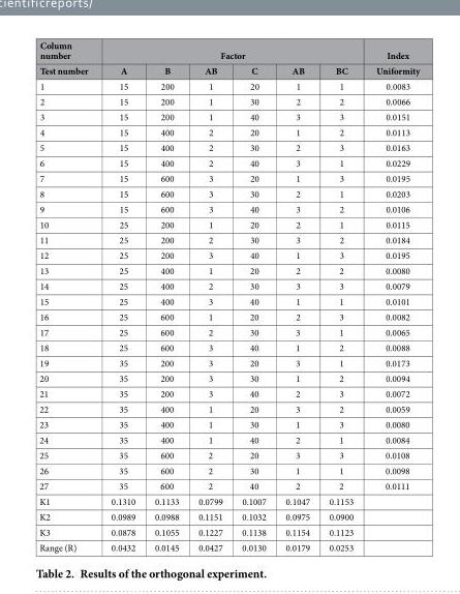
<table><thead><tr><td rowspan="2">Column number Test number</td><td colspan="6">Factor</td><td rowspan="2">Index Uniformity</td></tr><tr><td>A</td><td>B</td><td>AB</td><td>C</td><td>AB</td><td>BC</td></tr></thead><tbody><tr><td>1</td><td>15</td><td>200</td><td>1</td><td>20</td><td>1</td><td>1</td><td>0.0083</td></tr><tr><td>2</td><td>15</td><td>200</td><td>1</td><td>30</td><td>2</td><td>2</td><td>0.0066</td></tr><tr><td>3</td><td>15</td><td>200</td><td>1</td><td>40</td><td>3</td><td>3</td><td>0.0151</td></tr><tr><td>4</td><td>15</td><td>400</td><td>2</td><td>20</td><td>1</td><td>2</td><td>0.0113</td></tr><tr><td>5</td><td>15</td><td>400</td><td>2</td><td>30</td><td>2</td><td>3</td><td>0.0163</td></tr><tr><td>6</td><td>15</td><td>400</td><td>2</td><td>40</td><td>3</td><td>1</td><td>0.0229</td></tr><tr><td>7</td><td>15</td><td>600</td><td>3</td><td>20</td><td>1</td><td>3</td><td>0.0195</td></tr><tr><td>8</td><td>15</td><td>600</td><td>3</td><td>30</td><td>2</td><td>1</td><td>0.0203</td></tr><tr><td>9</td><td>15</td><td>600</td><td>3</td><td>40</td><td>3</td><td>2</td><td>0.0106</td></tr><tr><td>10</td><td>25</td><td>200</td><td>1</td><td>20</td><td>2</td><td>1</td><td>0.0115</td></tr><tr><td>11</td><td>25</td><td>200</td><td>2</td><td>30</td><td>3</td><td>2</td><td>0.0184</td></tr><tr><td>12</td><td>25</td><td>200</td><td>3</td><td>40</td><td>1</td><td>3</td><td>0.0195</td></tr><tr><td>13</td><td>25</td><td>400</td><td>1</td><td>20</td><td>2</td><td>2</td><td>0.0080</td></tr><tr><td>14</td><td>25</td><td>400</td><td>2</td><td>30</td><td>3</td><td>3</td><td>0.0079</td></tr><tr><td>15</td><td>25</td><td>400</td><td>3</td><td>40</td><td>1</td><td>1</td><td>0.0101</td></tr><tr><td>16</td><td>25</td><td>600</td><td>1</td><td>20</td><td>2</td><td>3</td><td>0.0082</td></tr><tr><td>17</td><td>25</td><td>600</td><td>2</td><td>30</td><td>3</td><td>1</td><td>0.0065</td></tr><tr><td>18</td><td>25</td><td>600</td><td>3</td><td>40</td><td>1</td><td>2</td><td>0.0088</td></tr><tr><td>19</td><td>35</td><td>200</td><td>3</td><td>20</td><td>3</td><td>1</td><td>0.0173</td></tr><tr><td>20</td><td>35</td><td>200</td><td>3</td><td>30</td><td>1</td><td>2</td><td>0.0094</td></tr><tr><td>21</td><td>35</td><td>200</td><td>3</td><td>40</td><td>2</td><td>3</td><td>0.0072</td></tr><tr><td>22</td><td>35</td><td>400</td><td>1</td><td>20</td><td>3</td><td>2</td><td>0.0059</td></tr><tr><td>23</td><td>35</td><td>400</td><td>1</td><td>30</td><td>1</td><td>3</td><td>0.0080</td></tr><tr><td>24</td><td>35</td><td>400</td><td>1</td><td>40</td><td>2</td><td>1</td><td>0.0084</td></tr><tr><td>25</td><td>35</td><td>600</td><td>2</td><td>20</td><td>3</td><td>3</td><td>0.0108</td></tr><tr><td>26</td><td>35</td><td>600</td><td>2</td><td>30</td><td>1</td><td>1</td><td>0.0098</td></tr><tr><td>27</td><td>35</td><td>600</td><td>2</td><td>40</td><td>2</td><td>2</td><td>0.0111</td></tr><tr><td>K1</td><td>0.1310</td><td>0.1133</td><td>0.0799</td><td>0.1007</td><td>0.1047</td><td>0.1153</td><td></td></tr><tr><td>K2</td><td>0.0989</td><td>0.0988</td><td>0.1151</td><td>0.1032</td><td>0.0975</td><td>0.0900</td><td></td></tr><tr><td>K3</td><td>0.0878</td><td>0.1055</td><td>0.1227</td><td>0.1138</td><td>0.1154</td><td>0.1123</td><td></td></tr><tr><td>Range (R)</td><td>0.0432</td><td>0.0145</td><td>0.0427</td><td>0.0130</td><td>0.0179</td><td>0.0253</td><td></td></tr></tbody></table>